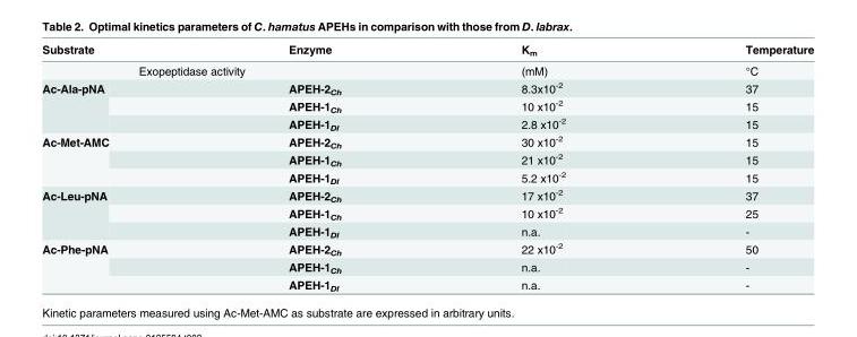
<table><thead><tr><td>Substrate</td><td>Enzyme</td><td>K<sub>m</sub></td><td>Temperature</td></tr></thead><tbody><tr><td colspan="2">Exopeptidase activity</td><td>(mM)</td><td>°C</td></tr><tr><td rowspan="3">Ac-Ala-pNA</td><td>APEH-2<sub>Ch</sub></td><td>8.3x10<sup>-2</sup></td><td>37</td></tr><tr><td>APEH-1<sub>Ch</sub></td><td>10 x10<sup>-2</sup></td><td>15</td></tr><tr><td>APEH-1<sub>Dl</sub></td><td>2.8 x10<sup>-2</sup></td><td>15</td></tr><tr><td rowspan="3">Ac-Met-AMC</td><td>APEH-2<sub>Ch</sub></td><td>30 x10<sup>-2</sup></td><td>15</td></tr><tr><td>APEH-1<sub>Ch</sub></td><td>21 x10<sup>-2</sup></td><td>15</td></tr><tr><td>APEH-1<sub>Dl</sub></td><td>5.2 x10<sup>-2</sup></td><td>15</td></tr><tr><td rowspan="3">Ac-Leu-pNA</td><td>APEH-2<sub>Ch</sub></td><td>17 x10<sup>-2</sup></td><td>37</td></tr><tr><td>APEH-1<sub>Ch</sub></td><td>10 x10<sup>-2</sup></td><td>25</td></tr><tr><td>APEH-1<sub>Dl</sub></td><td>n.a.</td><td>-</td></tr><tr><td rowspan="3">Ac-Phe-pNA</td><td>APEH-2<sub>Ch</sub></td><td>22 x10<sup>-2</sup></td><td>50</td></tr><tr><td>APEH-1<sub>Ch</sub></td><td>n.a.</td><td>-</td></tr><tr><td>APEH-1<sub>Dl</sub></td><td>n.a.</td><td>-</td></tr></tbody></table>